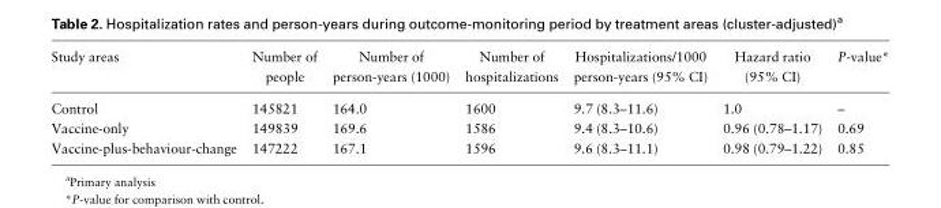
<table><thead><tr><td>Study areas</td><td>Number of people</td><td>Number of person-years (1000)</td><td>Number of hospitalizations</td><td>Hospitalizations/1000 person-years (95% CI)</td><td>Hazard ratio (95% CI)</td><td>P-value*</td></tr></thead><tbody><tr><td>Control</td><td>145821</td><td>164.0</td><td>1600</td><td>9.7 (8.3–11.6)</td><td>1.0</td><td>–</td></tr><tr><td>Vaccine-only</td><td>149839</td><td>169.6</td><td>1586</td><td>9.4 (8.3–10.6)</td><td>0.96 (0.78–1.17)</td><td>0.69</td></tr><tr><td>Vaccine-plus-behaviour-change</td><td>147222</td><td>167.1</td><td>1596</td><td>9.6 (8.3–11.1)</td><td>0.98 (0.79–1.22)</td><td>0.85</td></tr></tbody></table>